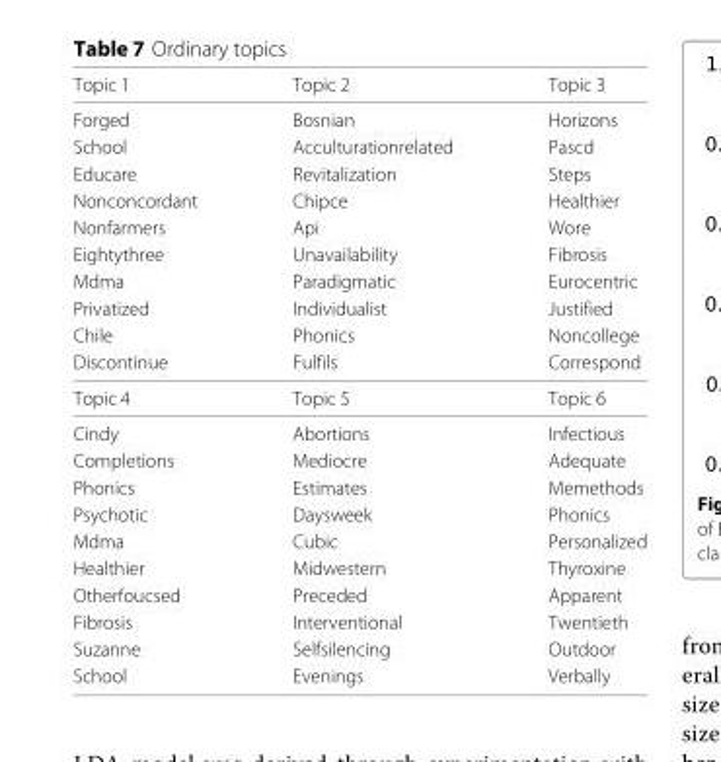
<table><thead><tr><td>Topic 1</td><td>Topic 2</td><td>Topic 3</td></tr></thead><tbody><tr><td>Forged</td><td>Bosnian</td><td>Horizons</td></tr><tr><td>School</td><td>Acculturationrelated</td><td>Pascd</td></tr><tr><td>Educare</td><td>Revitalization</td><td>Steps</td></tr><tr><td>Nonconcordant</td><td>Chipce</td><td>Healthier</td></tr><tr><td>Nonfarmers</td><td>Api</td><td>Wore</td></tr><tr><td>Eightythree</td><td>Unavailability</td><td>Fibrosis</td></tr><tr><td>Mdma</td><td>Paradigmatic</td><td>Eurocentric</td></tr><tr><td>Privatized</td><td>Individualist</td><td>Justified</td></tr><tr><td>Chile</td><td>Phonics</td><td>Noncollege</td></tr><tr><td>Discontinue</td><td>Fulfils</td><td>Correspond</td></tr><tr><td>Topic 4</td><td>Topic 5</td><td>Topic 6</td></tr><tr><td>Cindy</td><td>Abortions</td><td>Infectious</td></tr><tr><td>Completions</td><td>Mediocre</td><td>Adequate</td></tr><tr><td>Phonics</td><td>Estimates</td><td>Memethods</td></tr><tr><td>Psychotic</td><td>Daysweek</td><td>Phonics</td></tr><tr><td>Mdma</td><td>Cubic</td><td>Personalized</td></tr><tr><td>Healthier</td><td>Midwestern</td><td>Thyroxine</td></tr><tr><td>Otherfoucsed</td><td>Preceded</td><td>Apparent</td></tr><tr><td>Fibrosis</td><td>Interventional</td><td>Twentieth</td></tr><tr><td>Suzanne</td><td>Selfsilencing</td><td>Outdoor</td></tr><tr><td>School</td><td>Evenings</td><td>Verbally</td></tr></tbody></table>